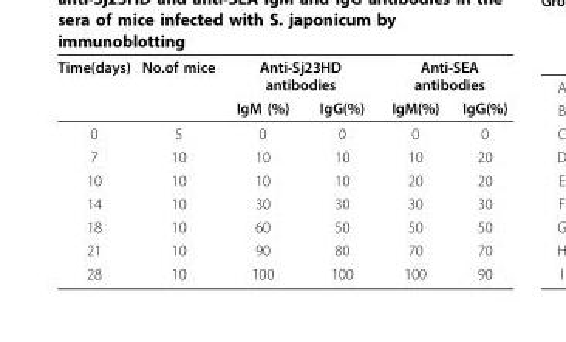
<table><thead><tr><td rowspan="2">Time(days)</td><td rowspan="2">No.of mice</td><td colspan="2">Anti-Sj23HD antibodies</td><td colspan="2">Anti-SEA antibodies</td></tr><tr><td>IgM (%)</td><td>IgG(%)</td><td>IgM(%)</td><td>IgG(%)</td></tr></thead><tbody><tr><td>0</td><td>5</td><td>0</td><td>0</td><td>0</td><td>0</td></tr><tr><td>7</td><td>10</td><td>10</td><td>10</td><td>10</td><td>20</td></tr><tr><td>10</td><td>10</td><td>10</td><td>10</td><td>20</td><td>20</td></tr><tr><td>14</td><td>10</td><td>30</td><td>30</td><td>30</td><td>30</td></tr><tr><td>18</td><td>10</td><td>60</td><td>50</td><td>50</td><td>50</td></tr><tr><td>21</td><td>10</td><td>90</td><td>80</td><td>70</td><td>70</td></tr><tr><td>28</td><td>10</td><td>100</td><td>100</td><td>100</td><td>90</td></tr></tbody></table>